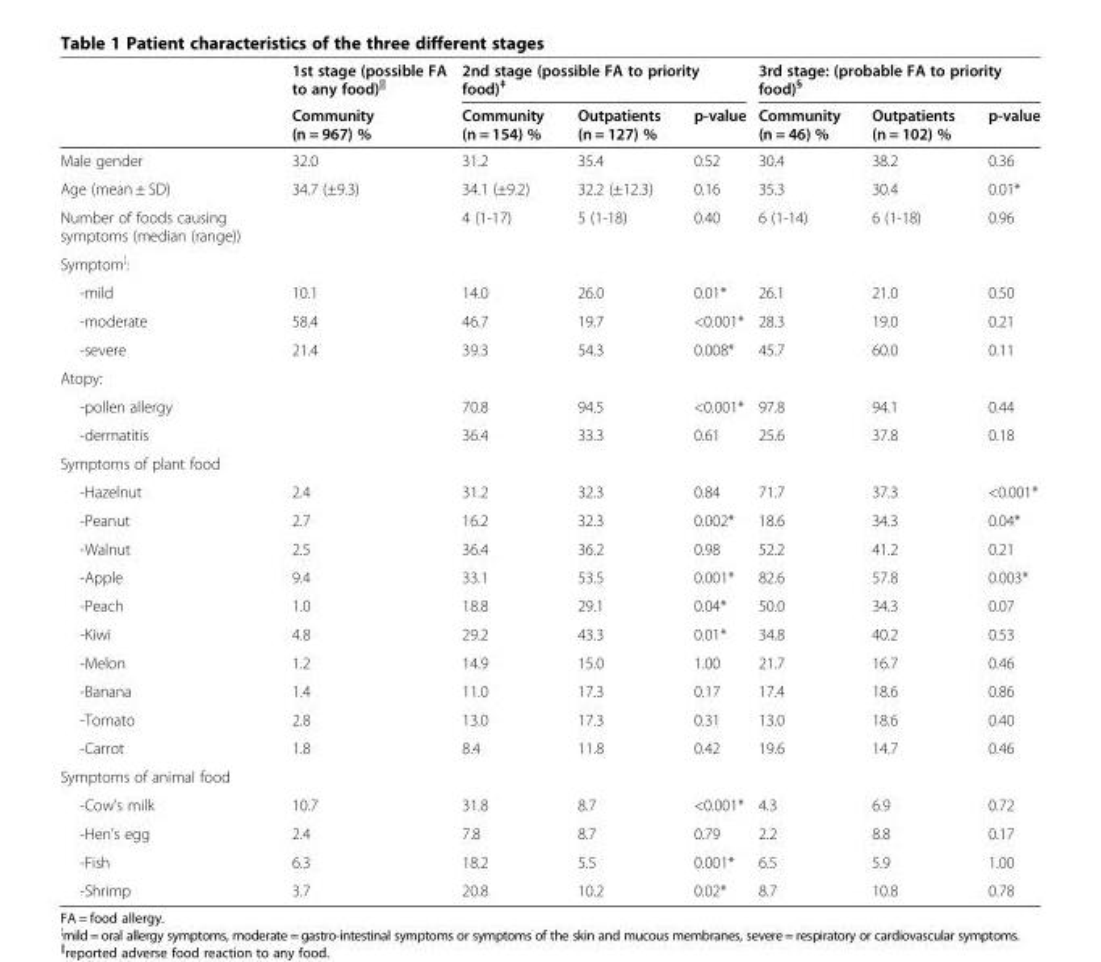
<table><thead><tr><td rowspan="2"></td><td rowspan="2">1st stage (possible FA to any food)<sup>||</sup> Community (n = 967) %</td><td colspan="3">2nd stage (possible FA to priority food)<sup>‡</sup></td><td colspan="3">3rd stage: (probable FA to priority food)<sup>§</sup></td></tr><tr><td>Community (n = 154) %</td><td>Outpatients (n = 127) %</td><td>p-value</td><td>Community (n = 46) %</td><td>Outpatients (n = 102) %</td><td>p-value</td></tr></thead><tbody><tr><td>Male gender</td><td>32.0</td><td>31.2</td><td>35.4</td><td>0.52</td><td>30.4</td><td>38.2</td><td>0.36</td></tr><tr><td>Age (mean ± SD)</td><td>34.7 (±9.3)</td><td>34.1 (±9.2)</td><td>32.2 (±12.3)</td><td>0.16</td><td>35.3</td><td>30.4</td><td>0.01*</td></tr><tr><td>Number of foods causing symptoms (median (range))</td><td></td><td>4 (1-17)</td><td>5 (1-18)</td><td>0.40</td><td>6 (1-14)</td><td>6 (1-18)</td><td>0.96</td></tr><tr><td colspan="8">Symptom<sup>¦</sup>:</td></tr><tr><td>-mild</td><td>10.1</td><td>14.0</td><td>26.0</td><td>0.01*</td><td>26.1</td><td>21.0</td><td>0.50</td></tr><tr><td>-moderate</td><td>58.4</td><td>46.7</td><td>19.7</td><td>&lt;0.001*</td><td>28.3</td><td>19.0</td><td>0.21</td></tr><tr><td>-severe</td><td>21.4</td><td>39.3</td><td>54.3</td><td>0.008*</td><td>45.7</td><td>60.0</td><td>0.11</td></tr><tr><td colspan="8">Atopy:</td></tr><tr><td>-pollen allergy</td><td></td><td>70.8</td><td>94.5</td><td>&lt;0.001*</td><td>97.8</td><td>94.1</td><td>0.44</td></tr><tr><td>-dermatitis</td><td></td><td>36.4</td><td>33.3</td><td>0.61</td><td>25.6</td><td>37.8</td><td>0.18</td></tr><tr><td colspan="8">Symptoms of plant food</td></tr><tr><td>-Hazelnut</td><td>2.4</td><td>31.2</td><td>32.3</td><td>0.84</td><td>71.7</td><td>37.3</td><td>&lt;0.001*</td></tr><tr><td>-Peanut</td><td>2.7</td><td>16.2</td><td>32.3</td><td>0.002*</td><td>18.6</td><td>34.3</td><td>0.04*</td></tr><tr><td>-Walnut</td><td>2.5</td><td>36.4</td><td>36.2</td><td>0.98</td><td>52.2</td><td>41.2</td><td>0.21</td></tr><tr><td>-Apple</td><td>9.4</td><td>33.1</td><td>53.5</td><td>0.001*</td><td>82.6</td><td>57.8</td><td>0.003*</td></tr><tr><td>-Peach</td><td>1.0</td><td>18.8</td><td>29.1</td><td>0.04*</td><td>50.0</td><td>34.3</td><td>0.07</td></tr><tr><td>-Kiwi</td><td>4.8</td><td>29.2</td><td>43.3</td><td>0.01*</td><td>34.8</td><td>40.2</td><td>0.53</td></tr><tr><td>-Melon</td><td>1.2</td><td>14.9</td><td>15.0</td><td>1.00</td><td>21.7</td><td>16.7</td><td>0.46</td></tr><tr><td>-Banana</td><td>1.4</td><td>11.0</td><td>17.3</td><td>0.17</td><td>17.4</td><td>18.6</td><td>0.86</td></tr><tr><td>-Tomato</td><td>2.8</td><td>13.0</td><td>17.3</td><td>0.31</td><td>13.0</td><td>18.6</td><td>0.40</td></tr><tr><td>-Carrot</td><td>1.8</td><td>8.4</td><td>11.8</td><td>0.42</td><td>19.6</td><td>14.7</td><td>0.46</td></tr><tr><td colspan="8">Symptoms of animal food</td></tr><tr><td>-Cow’s milk</td><td>10.7</td><td>31.8</td><td>8.7</td><td>&lt;0.001*</td><td>4.3</td><td>6.9</td><td>0.72</td></tr><tr><td>-Hen’s egg</td><td>2.4</td><td>7.8</td><td>8.7</td><td>0.79</td><td>2.2</td><td>8.8</td><td>0.17</td></tr><tr><td>-Fish</td><td>6.3</td><td>18.2</td><td>5.5</td><td>0.001*</td><td>6.5</td><td>5.9</td><td>1.00</td></tr><tr><td>-Shrimp</td><td>3.7</td><td>20.8</td><td>10.2</td><td>0.02*</td><td>8.7</td><td>10.8</td><td>0.78</td></tr></tbody></table>